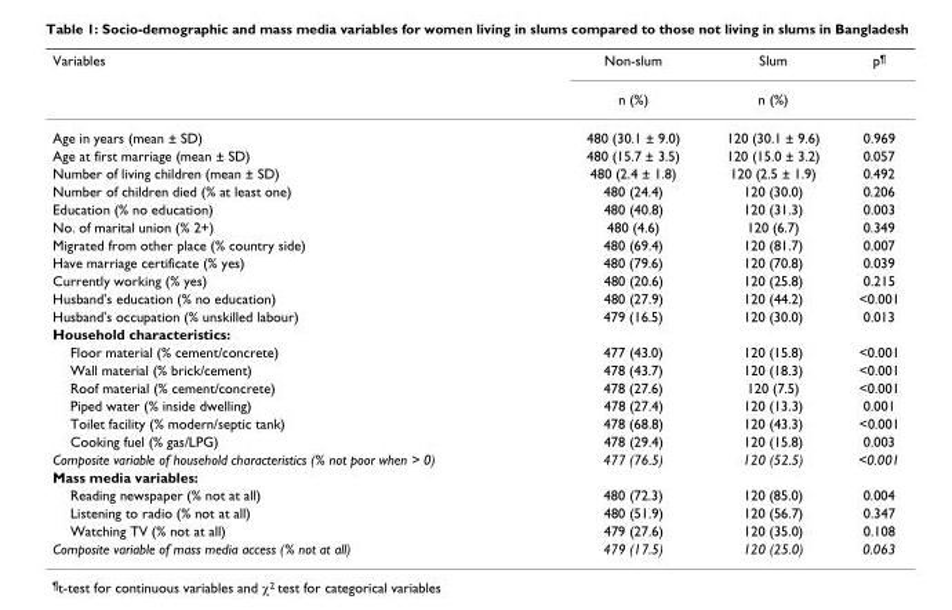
<table><thead><tr><td rowspan="2">Variables</td><td rowspan="2">Non-slum n (%)</td><td rowspan="2">Slum n (%)</td><td rowspan="2">p<sup>¶</sup></td></tr><tr></tr></thead><tbody><tr><td>Age in years (mean ± SD)</td><td>480 (30.1 ± 9.0)</td><td>120 (30.1 ± 9.6)</td><td>0.969</td></tr><tr><td>Age at first marriage (mean ± SD)</td><td>480 (15.7 ± 3.5)</td><td>120 (15.0 ± 3.2)</td><td>0.057</td></tr><tr><td>Number of living children (mean ± SD)</td><td>480 (2.4 ± 1.8)</td><td>120 (2.5 ± 1.9)</td><td>0.492</td></tr><tr><td>Number of children died (% at least one)</td><td>480 (24.4)</td><td>120 (30.0)</td><td>0.206</td></tr><tr><td>Education (% no education)</td><td>480 (40.8)</td><td>120 (31.3)</td><td>0.003</td></tr><tr><td>No. of marital union (% 2+)</td><td>480 (4.6)</td><td>120 (6.7)</td><td>0.349</td></tr><tr><td>Migrated from other place (% country side)</td><td>480 (69.4)</td><td>120 (81.7)</td><td>0.007</td></tr><tr><td>Have marriage certificate (% yes)</td><td>480 (79.6)</td><td>120 (70.8)</td><td>0.039</td></tr><tr><td>Currently working (% yes)</td><td>480 (20.6)</td><td>120 (25.8)</td><td>0.215</td></tr><tr><td>Husband&#x27;s education (% no education)</td><td>480 (27.9)</td><td>120 (44.2)</td><td>&lt;0.001</td></tr><tr><td>Husband&#x27;s occupation (% unskilled labour)</td><td>479 (16.5)</td><td>120 (30.0)</td><td>0.013</td></tr><tr><td colspan="4">Household characteristics:</td></tr><tr><td>Floor material (% cement/concrete)</td><td>477 (43.0)</td><td>120 (15.8)</td><td>&lt;0.001</td></tr><tr><td>Wall material (% brick/cement)</td><td>478 (43.7)</td><td>120 (18.3)</td><td>&lt;0.001</td></tr><tr><td>Roof material (% cement/concrete)</td><td>478 (27.6)</td><td>120 (7.5)</td><td>&lt;0.001</td></tr><tr><td>Piped water (% inside dwelling)</td><td>478 (27.4)</td><td>120 (13.3)</td><td>0.001</td></tr><tr><td>Toilet facility (% modern/septic tank)</td><td>478 (68.8)</td><td>120 (43.3)</td><td>&lt;0.001</td></tr><tr><td>Cooking fuel (% gas/LPG)</td><td>478 (29.4)</td><td>120 (15.8)</td><td>0.003</td></tr><tr><td>Composite variable of household characteristics (% not poor when &gt; 0)</td><td>477 (76.5)</td><td>120 (52.5)</td><td>&lt;0.001</td></tr><tr><td colspan="4">Mass media variables:</td></tr><tr><td>Reading newspaper (% not at all)</td><td>480 (72.3)</td><td>120 (85.0)</td><td>0.004</td></tr><tr><td>Listening to radio (% not at all)</td><td>480 (51.9)</td><td>120 (56.7)</td><td>0.347</td></tr><tr><td>Watching TV (% not at all)</td><td>479 (27.6)</td><td>120 (35.0)</td><td>0.108</td></tr><tr><td>Composite variable of mass media access (% not at all)</td><td>479 (17.5)</td><td>120 (25.0)</td><td>0.063</td></tr></tbody></table>